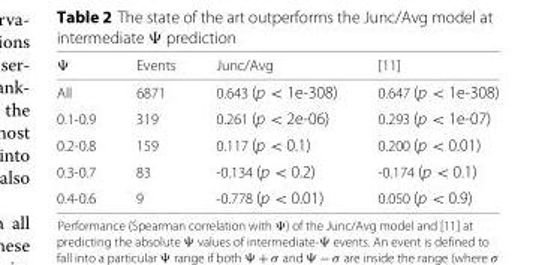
<table><thead><tr><td>Ψ</td><td>Events</td><td>Junc/Avg</td><td>[11]</td></tr></thead><tbody><tr><td>All</td><td>6871</td><td>0.643 (p &lt; 1e-308)</td><td>0.647 (p &lt; 1e-308)</td></tr><tr><td>0.1-0.9</td><td>319</td><td>0.261 (p &lt; 2e-06)</td><td>0.293 (p &lt; 1e-07)</td></tr><tr><td>0.2-0.8</td><td>159</td><td>0.117 (p &lt; 0.1)</td><td>0.200 (p &lt; 0.01)</td></tr><tr><td>0.3-0.7</td><td>83</td><td>-0.134 (p &lt; 0.2)</td><td>-0.174 (p &lt; 0.1)</td></tr><tr><td>0.4-0.6</td><td>9</td><td>-0.778 (p &lt; 0.01)</td><td>0.050 (p &lt; 0.9)</td></tr></tbody></table>